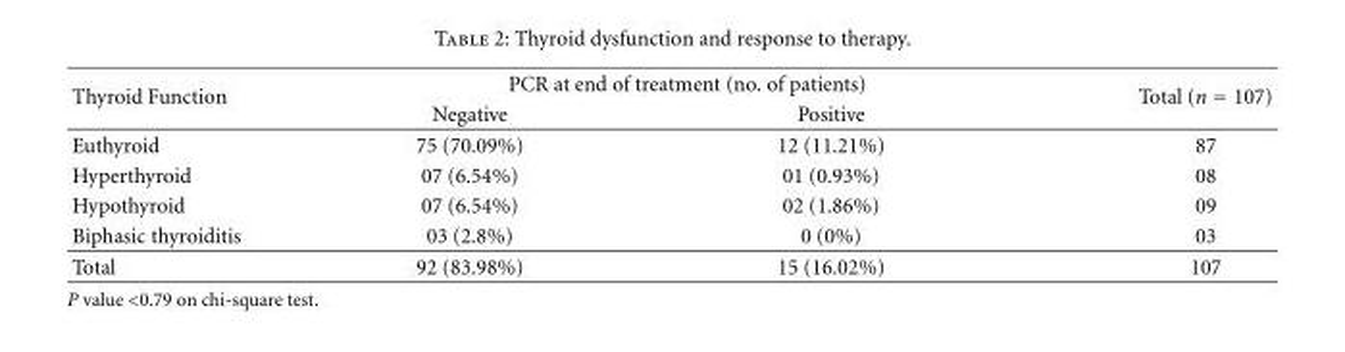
<table><thead><tr><td rowspan="2">Thyroid Function</td><td colspan="2">PCR at end of treatment (no. of patients)</td><td rowspan="2">Total (n = 107)</td></tr><tr><td>Negative</td><td>Positive</td></tr></thead><tbody><tr><td>Euthyroid</td><td>75 (70.09%)</td><td>12 (11.21%)</td><td>87</td></tr><tr><td>Hyperthyroid</td><td>07 (6.54%)</td><td>01 (0.93%)</td><td>08</td></tr><tr><td>Hypothyroid</td><td>07 (6.54%)</td><td>02 (1.86%)</td><td>09</td></tr><tr><td>Biphasic thyroiditis</td><td>03 (2.8%)</td><td>0 (0%)</td><td>03</td></tr><tr><td>Total</td><td>92 (83.98%)</td><td>15 (16.02%)</td><td>107</td></tr></tbody></table>